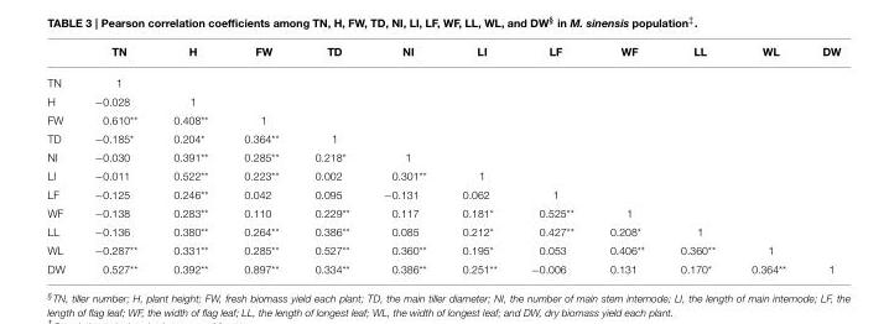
<table><thead><tr><td></td><td>TN</td><td>H</td><td>FW</td><td>TD</td><td>NI</td><td>LI</td><td>LF</td><td>WF</td><td>LL</td><td>WL</td><td>DW</td></tr></thead><tbody><tr><td>TN</td><td>1</td><td></td><td></td><td></td><td></td><td></td><td></td><td></td><td></td><td></td><td></td></tr><tr><td>H</td><td>−0.028</td><td>1</td><td></td><td></td><td></td><td></td><td></td><td></td><td></td><td></td><td></td></tr><tr><td>FW</td><td>0.610**</td><td>0.408**</td><td>1</td><td></td><td></td><td></td><td></td><td></td><td></td><td></td><td></td></tr><tr><td>TD</td><td>−0.185*</td><td>0.204*</td><td>0.364**</td><td>1</td><td></td><td></td><td></td><td></td><td></td><td></td><td></td></tr><tr><td>NI</td><td>−0.030</td><td>0.391**</td><td>0.285**</td><td>0.218*</td><td>1</td><td></td><td></td><td></td><td></td><td></td><td></td></tr><tr><td>LI</td><td>−0.011</td><td>0.522**</td><td>0.223**</td><td>0.002</td><td>0.301**</td><td>1</td><td></td><td></td><td></td><td></td><td></td></tr><tr><td>LF</td><td>−0.125</td><td>0.246**</td><td>0.042</td><td>0.095</td><td>−0.131</td><td>0.062</td><td>1</td><td></td><td></td><td></td><td></td></tr><tr><td>WF</td><td>−0.138</td><td>0.283**</td><td>0.110</td><td>0.229**</td><td>0.117</td><td>0.181*</td><td>0.525**</td><td>1</td><td></td><td></td><td></td></tr><tr><td>LL</td><td>−0.136</td><td>0.380**</td><td>0.264**</td><td>0.386**</td><td>0.085</td><td>0.212*</td><td>0.427**</td><td>0.208*</td><td>1</td><td></td><td></td></tr><tr><td>WL</td><td>−0.287**</td><td>0.331**</td><td>0.285**</td><td>0.527**</td><td>0.360**</td><td>0.195*</td><td>0.053</td><td>0.406**</td><td>0.360**</td><td>1</td><td></td></tr><tr><td>DW</td><td>0.527**</td><td>0.392**</td><td>0.897**</td><td>0.334**</td><td>0.386**</td><td>0.251**</td><td>−0.006</td><td>0.131</td><td>0.170*</td><td>0.364**</td><td>1</td></tr></tbody></table>